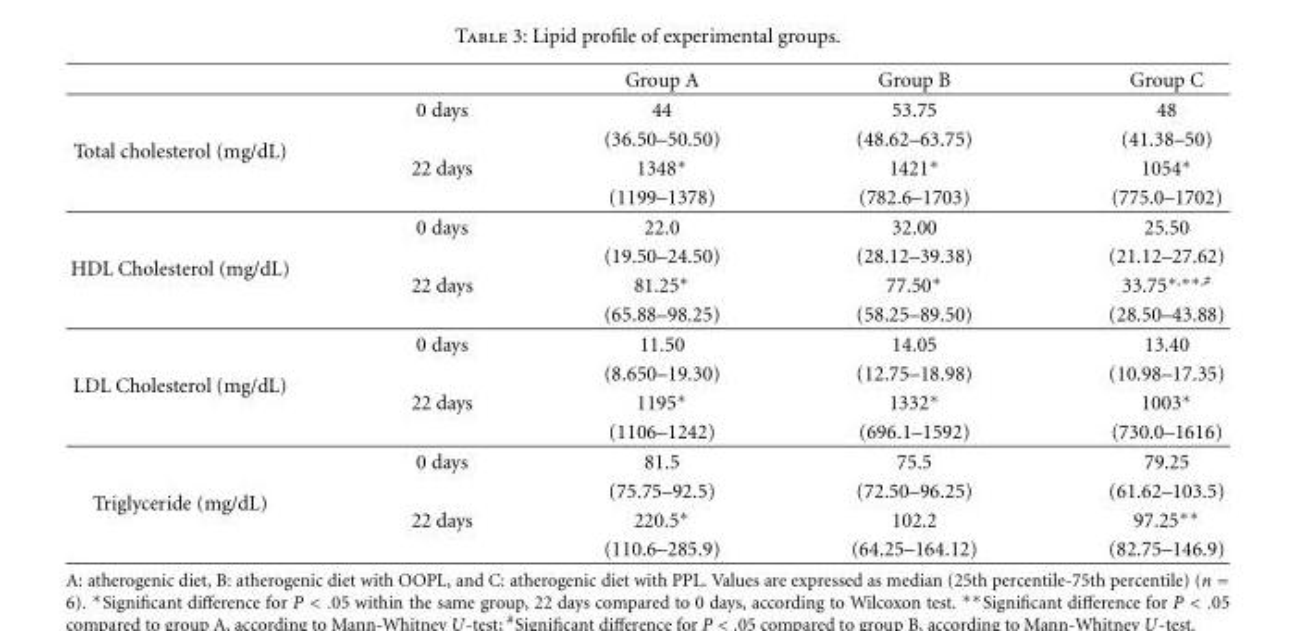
<table><thead><tr><td></td><td></td><td>Group A</td><td>Group B</td><td>Group C</td></tr></thead><tbody><tr><td rowspan="4">Total cholesterol (mg/dL)</td><td>0 days</td><td>44</td><td>53.75</td><td>48</td></tr><tr><td></td><td>(36.50–50.50)</td><td>(48.62–63.75)</td><td>(41.38–50)</td></tr><tr><td>22 days</td><td>1348∗</td><td>1421∗</td><td>1054∗</td></tr><tr><td></td><td>(1199–1378)</td><td>(782.6–1703)</td><td>(775.0–1702)</td></tr><tr><td rowspan="4">HDL Cholesterol (mg/dL)</td><td>0 days</td><td>22.0</td><td>32.00</td><td>25.50</td></tr><tr><td></td><td>(19.50–24.50)</td><td>(28.12–39.38)</td><td>(21.12–27.62)</td></tr><tr><td>22 days</td><td>81.25∗</td><td>77.50∗</td><td>33.75∗,∗∗,#</td></tr><tr><td></td><td>(65.88–98.25)</td><td>(58.25–89.50)</td><td>(28.50–43.88)</td></tr><tr><td rowspan="4">LDL Cholesterol (mg/dL)</td><td>0 days</td><td>11.50</td><td>14.05</td><td>13.40</td></tr><tr><td></td><td>(8.650–19.30)</td><td>(12.75–18.98)</td><td>(10.98–17.35)</td></tr><tr><td>22 days</td><td>1195∗</td><td>1332∗</td><td>1003∗</td></tr><tr><td></td><td>(1106–1242)</td><td>(696.1–1592)</td><td>(730.0–1616)</td></tr><tr><td rowspan="4">Triglyceride (mg/dL)</td><td>0 days</td><td>81.5</td><td>75.5</td><td>79.25</td></tr><tr><td></td><td>(75.75–92.5)</td><td>(72.50–96.25)</td><td>(61.62–103.5)</td></tr><tr><td>22 days</td><td>220.5∗</td><td>102.2</td><td>97.25∗∗</td></tr><tr><td></td><td>(110.6–285.9)</td><td>(64.25–164.12)</td><td>(82.75–146.9)</td></tr></tbody></table>